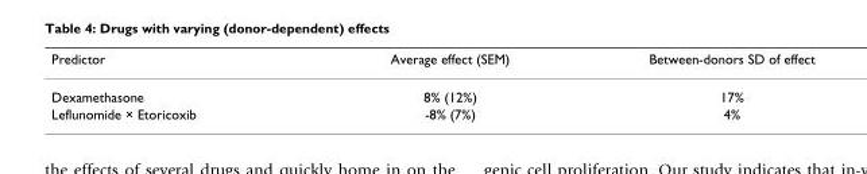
<table><thead><tr><td>Predictor</td><td>Average effect (SEM)</td><td>Between-donors SD of effect</td></tr></thead><tbody><tr><td>Dexamethasone</td><td>8% (12%)</td><td>17%</td></tr><tr><td>Leflunomide × Etoricoxib</td><td>-8% (7%)</td><td>4%</td></tr></tbody></table>